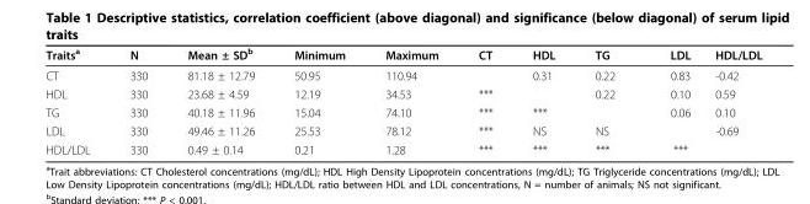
<table><thead><tr><td>Traits<sup>a</sup></td><td>N</td><td>Mean ± SD<sup>b</sup></td><td>Minimum</td><td>Maximum</td><td>CT</td><td>HDL</td><td>TG</td><td>LDL</td><td>HDL/LDL</td></tr></thead><tbody><tr><td>CT</td><td>330</td><td>81.18 ± 12.79</td><td>50.95</td><td>110.94</td><td></td><td>0.31</td><td>0.22</td><td>0.83</td><td>-0.42</td></tr><tr><td>HDL</td><td>330</td><td>23.68 ± 4.59</td><td>12.19</td><td>34.53</td><td>***</td><td></td><td>0.22</td><td>0.10</td><td>0.59</td></tr><tr><td>TG</td><td>330</td><td>40.18 ± 11.96</td><td>15.04</td><td>74.10</td><td>***</td><td>***</td><td></td><td>0.06</td><td>0.10</td></tr><tr><td>LDL</td><td>330</td><td>49.46 ± 11.26</td><td>25.53</td><td>78.12</td><td>***</td><td>NS</td><td>NS</td><td></td><td>-0.69</td></tr><tr><td>HDL/LDL</td><td>330</td><td>0.49 ± 0.14</td><td>0.21</td><td>1.28</td><td>***</td><td>***</td><td>***</td><td>***</td><td></td></tr></tbody></table>